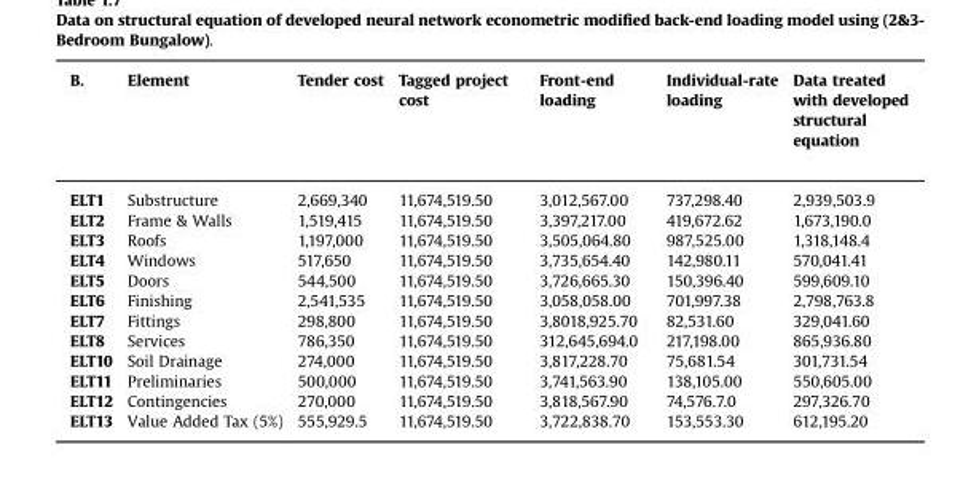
<table><thead><tr><td>B.</td><td>Element</td><td>Tender cost</td><td>Tagged project cost</td><td>Front-end loading</td><td>Individual-rate loading</td><td>Data treated with developed structural equation</td></tr></thead><tbody><tr><td>ELT1</td><td>Substructure</td><td>2,669,340</td><td>11,674,519.50</td><td>3,012,567.00</td><td>737,298.40</td><td>2,939,503.9</td></tr><tr><td>ELT2</td><td>Frame &amp; Walls</td><td>1,519,415</td><td>11,674,519.50</td><td>3,397,217.00</td><td>419,672.62</td><td>1,673,190.0</td></tr><tr><td>ELT3</td><td>Roofs</td><td>1,197,000</td><td>11,674,519.50</td><td>3,505,064.80</td><td>987,525.00</td><td>1,318,148.4</td></tr><tr><td>ELT4</td><td>Windows</td><td>517,650</td><td>11,674,519.50</td><td>3,735,654.40</td><td>142,980.11</td><td>570,041.41</td></tr><tr><td>ELT5</td><td>Doors</td><td>544,500</td><td>11,674,519.50</td><td>3,726,665.30</td><td>150,396.40</td><td>599,609.10</td></tr><tr><td>ELT6</td><td>Finishing</td><td>2,541,535</td><td>11,674,519.50</td><td>3,058,058.00</td><td>701,997.38</td><td>2,798,763.8</td></tr><tr><td>ELT7</td><td>Fittings</td><td>298,800</td><td>11,674,519.50</td><td>3,8018,925.70</td><td>82,531.60</td><td>329,041.60</td></tr><tr><td>ELT8</td><td>Services</td><td>786,350</td><td>11,674,519.50</td><td>312,645,694.0</td><td>217,198.00</td><td>865,936.80</td></tr><tr><td>ELT10</td><td>Soil Drainage</td><td>274,000</td><td>11,674,519.50</td><td>3,817,228.70</td><td>75,681.54</td><td>301,731.54</td></tr><tr><td>ELT11</td><td>Preliminaries</td><td>500,000</td><td>11,674,519.50</td><td>3,741,563.90</td><td>138,105.00</td><td>550,605.00</td></tr><tr><td>ELT12</td><td>Contingencies</td><td>270,000</td><td>11,674,519.50</td><td>3,818,567.90</td><td>74,576.7.0</td><td>297,326.70</td></tr><tr><td>ELT13</td><td>Value Added Tax (5%)</td><td>555,929.5</td><td>11,674,519.50</td><td>3,722,838.70</td><td>153,553.30</td><td>612,195.20</td></tr></tbody></table>